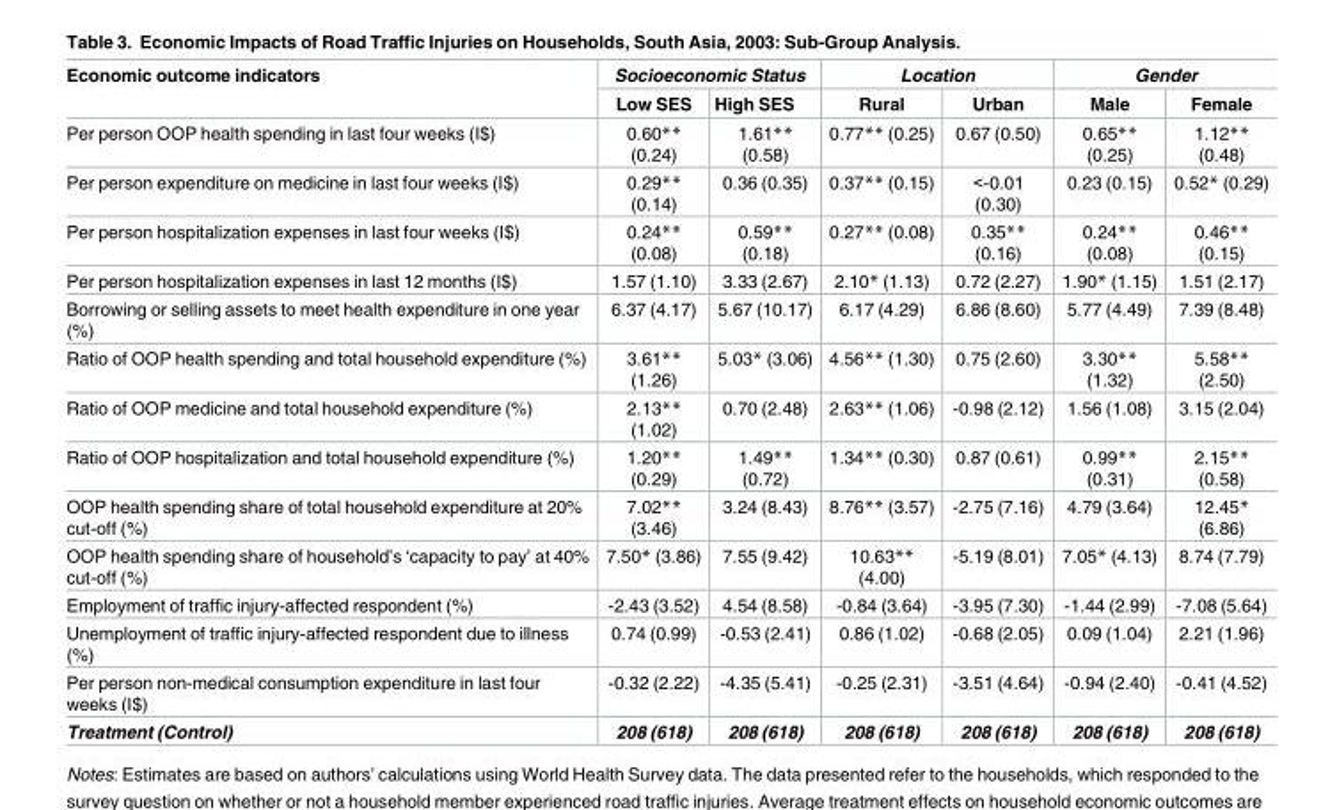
<table><thead><tr><td rowspan="2">Economic outcome indicators</td><td colspan="2">Socioeconomic Status</td><td colspan="2">Location</td><td colspan="2">Gender</td></tr><tr><td>Low SES</td><td>High SES</td><td>Rural</td><td>Urban</td><td>Male</td><td>Female</td></tr></thead><tbody><tr><td>Per person OOP health spending in last four weeks (I$)</td><td>0.60** (0.24)</td><td>1.61** (0.58)</td><td>0.77** (0.25)</td><td>0.67 (0.50)</td><td>0.65** (0.25)</td><td>1.12** (0.48)</td></tr><tr><td>Per person expenditure on medicine in last four weeks (I$)</td><td>0.29** (0.14)</td><td>0.36 (0.35)</td><td>0.37** (0.15)</td><td>&lt;-0.01 (0.30)</td><td>0.23 (0.15)</td><td>0.52* (0.29)</td></tr><tr><td>Per person hospitalization expenses in last four weeks (I$)</td><td>0.24** (0.08)</td><td>0.59** (0.18)</td><td>0.27** (0.08)</td><td>0.35** (0.16)</td><td>0.24** (0.08)</td><td>0.46** (0.15)</td></tr><tr><td>Per person hospitalization expenses in last 12 months (I$)</td><td>1.57 (1.10)</td><td>3.33 (2.67)</td><td>2.10* (1.13)</td><td>0.72 (2.27)</td><td>1.90* (1.15)</td><td>1.51 (2.17)</td></tr><tr><td>Borrowing or selling assets to meet health expenditure in one year (%)</td><td>6.37 (4.17)</td><td>5.67 (10.17)</td><td>6.17 (4.29)</td><td>6.86 (8.60)</td><td>5.77 (4.49)</td><td>7.39 (8.48)</td></tr><tr><td>Ratio of OOP health spending and total household expenditure (%)</td><td>3.61** (1.26)</td><td>5.03* (3.06)</td><td>4.56** (1.30)</td><td>0.75 (2.60)</td><td>3.30** (1.32)</td><td>5.58** (2.50)</td></tr><tr><td>Ratio of OOP medicine and total household expenditure (%)</td><td>2.13** (1.02)</td><td>0.70 (2.48)</td><td>2.63** (1.06)</td><td>-0.98 (2.12)</td><td>1.56 (1.08)</td><td>3.15 (2.04)</td></tr><tr><td>Ratio of OOP hospitalization and total household expenditure (%)</td><td>1.20** (0.29)</td><td>1.49** (0.72)</td><td>1.34** (0.30)</td><td>0.87 (0.61)</td><td>0.99** (0.31)</td><td>2.15** (0.58)</td></tr><tr><td>OOP health spending share of total household expenditure at 20% cut-off (%)</td><td>7.02** (3.46)</td><td>3.24 (8.43)</td><td>8.76** (3.57)</td><td>-2.75 (7.16)</td><td>4.79 (3.64)</td><td>12.45* (6.86)</td></tr><tr><td>OOP health spending share of household’s ‘capacity to pay’ at 40% cut-off (%)</td><td>7.50* (3.86)</td><td>7.55 (9.42)</td><td>10.63** (4.00)</td><td>-5.19 (8.01)</td><td>7.05* (4.13)</td><td>8.74 (7.79)</td></tr><tr><td>Employment of traffic injury-affected respondent (%)</td><td>-2.43 (3.52)</td><td>4.54 (8.58)</td><td>-0.84 (3.64)</td><td>-3.95 (7.30)</td><td>-1.44 (2.99)</td><td>-7.08 (5.64)</td></tr><tr><td>Unemployment of traffic injury-affected respondent due to illness (%)</td><td>0.74 (0.99)</td><td>-0.53 (2.41)</td><td>0.86 (1.02)</td><td>-0.68 (2.05)</td><td>0.09 (1.04)</td><td>2.21 (1.96)</td></tr><tr><td>Per person non-medical consumption expenditure in last four weeks (I$)</td><td>-0.32 (2.22)</td><td>-4.35 (5.41)</td><td>-0.25 (2.31)</td><td>-3.51 (4.64)</td><td>-0.94 (2.40)</td><td>-0.41 (4.52)</td></tr><tr><td>Treatment (Control)</td><td>208 (618)</td><td>208 (618)</td><td>208 (618)</td><td>208 (618)</td><td>208 (618)</td><td>208 (618)</td></tr></tbody></table>